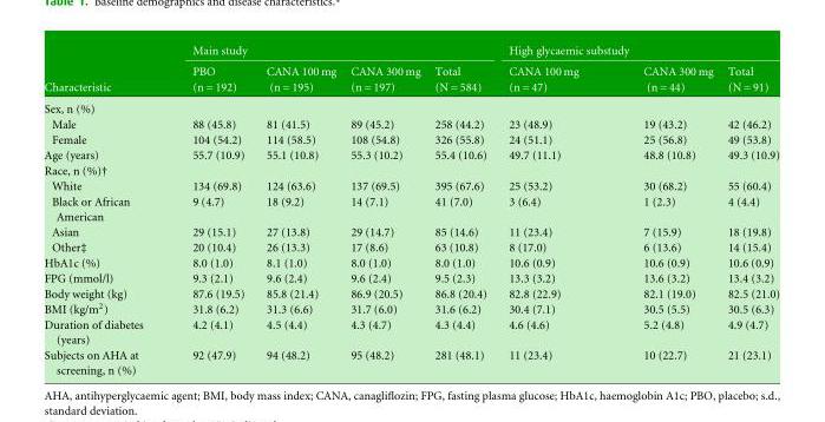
<table><thead><tr><td rowspan="2">Characteristic</td><td colspan="4">Main study</td><td colspan="3">High glycaemic substudy</td></tr><tr><td>PBO (n = 192)</td><td>CANA 100 mg (n = 195)</td><td>CANA 300 mg (n = 197)</td><td>Total (N = 584)</td><td>CANA 100 mg (n = 47)</td><td>CANA 300 mg (n = 44)</td><td>Total (N = 91)</td></tr></thead><tbody><tr><td colspan="8">Sex, n (%)</td></tr><tr><td>Male</td><td>88 (45.8)</td><td>81 (41.5)</td><td>89 (45.2)</td><td>258 (44.2)</td><td>23 (48.9)</td><td>19 (43.2)</td><td>42 (46.2)</td></tr><tr><td>Female</td><td>104 (54.2)</td><td>114 (58.5)</td><td>108 (54.8)</td><td>326 (55.8)</td><td>24 (51.1)</td><td>25 (56.8)</td><td>49 (53.8)</td></tr><tr><td>Age (years)</td><td>55.7 (10.9)</td><td>55.1 (10.8)</td><td>55.3 (10.2)</td><td>55.4 (10.6)</td><td>49.7 (11.1)</td><td>48.8 (10.8)</td><td>49.3 (10.9)</td></tr><tr><td colspan="8">Race, n (%)†</td></tr><tr><td>White</td><td>134 (69.8)</td><td>124 (63.6)</td><td>137 (69.5)</td><td>395 (67.6)</td><td>25 (53.2)</td><td>30 (68.2)</td><td>55 (60.4)</td></tr><tr><td>Black or African American</td><td>9 (4.7)</td><td>18 (9.2)</td><td>14 (7.1)</td><td>41 (7.0)</td><td>3 (6.4)</td><td>1 (2.3)</td><td>4 (4.4)</td></tr><tr><td>Asian</td><td>29 (15.1)</td><td>27 (13.8)</td><td>29 (14.7)</td><td>85 (14.6)</td><td>11 (23.4)</td><td>7 (15.9)</td><td>18 (19.8)</td></tr><tr><td>Other‡</td><td>20 (10.4)</td><td>26 (13.3)</td><td>17 (8.6)</td><td>63 (10.8)</td><td>8 (17.0)</td><td>6 (13.6)</td><td>14 (15.4)</td></tr><tr><td>HbA1c (%)</td><td>8.0 (1.0)</td><td>8.1 (1.0)</td><td>8.0 (1.0)</td><td>8.0 (1.0)</td><td>10.6 (0.9)</td><td>10.6 (0.9)</td><td>10.6 (0.9)</td></tr><tr><td>FPG (mmol/l)</td><td>9.3 (2.1)</td><td>9.6 (2.4)</td><td>9.6 (2.4)</td><td>9.5 (2.3)</td><td>13.3 (3.2)</td><td>13.6 (3.2)</td><td>13.4 (3.2)</td></tr><tr><td>Body weight (kg)</td><td>87.6 (19.5)</td><td>85.8 (21.4)</td><td>86.9 (20.5)</td><td>86.8 (20.4)</td><td>82.8 (22.9)</td><td>82.1 (19.0)</td><td>82.5 (21.0)</td></tr><tr><td>BMI (kg/m<sup>2</sup>)</td><td>31.8 (6.2)</td><td>31.3 (6.6)</td><td>31.7 (6.0)</td><td>31.6 (6.2)</td><td>30.4 (7.1)</td><td>30.5 (5.5)</td><td>30.5 (6.3)</td></tr><tr><td>Duration of diabetes (years)</td><td>4.2 (4.1)</td><td>4.5 (4.4)</td><td>4.3 (4.7)</td><td>4.3 (4.4)</td><td>4.6 (4.6)</td><td>5.2 (4.8)</td><td>4.9 (4.7)</td></tr><tr><td>Subjects on AHA at screening, n (%)</td><td>92 (47.9)</td><td>94 (48.2)</td><td>95 (48.2)</td><td>281 (48.1)</td><td>11 (23.4)</td><td>10 (22.7)</td><td>21 (23.1)</td></tr></tbody></table>